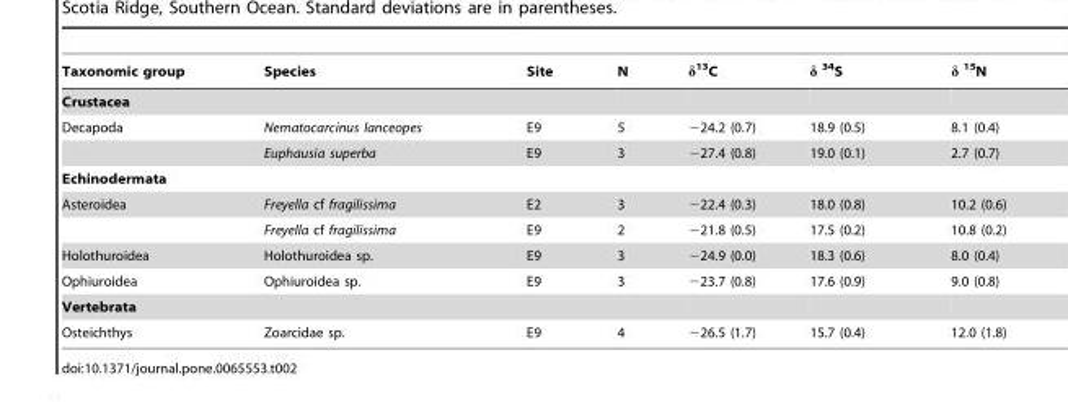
<table><thead><tr><td>Taxonomic group</td><td>Species</td><td>Site</td><td>N</td><td>δ<sup>13</sup>C</td><td>δ <sup>34</sup>S</td><td>δ <sup>15</sup>N</td></tr></thead><tbody><tr><td colspan="7">Crustacea</td></tr><tr><td rowspan="2">Decapoda</td><td>Nematocarcinus lanceopes</td><td>E9</td><td>5</td><td>−24.2 (0.7)</td><td>18.9 (0.5)</td><td>8.1 (0.4)</td></tr><tr><td>Euphausia superba</td><td>E9</td><td>3</td><td>−27.4 (0.8)</td><td>19.0 (0.1)</td><td>2.7 (0.7)</td></tr><tr><td colspan="7">Echinodermata</td></tr><tr><td rowspan="2">Asteroidea</td><td>Freyella cf fragilissima</td><td>E2</td><td>3</td><td>−22.4 (0.3)</td><td>18.0 (0.8)</td><td>10.2 (0.6)</td></tr><tr><td>Freyella cf fragilissima</td><td>E9</td><td>2</td><td>−21.8 (0.5)</td><td>17.5 (0.2)</td><td>10.8 (0.2)</td></tr><tr><td>Holothuroidea</td><td>Holothuroidea sp.</td><td>E9</td><td>3</td><td>−24.9 (0.0)</td><td>18.3 (0.6)</td><td>8.0 (0.4)</td></tr><tr><td>Ophiuroidea</td><td>Ophiuroidea sp.</td><td>E9</td><td>3</td><td>−23.7 (0.8)</td><td>17.6 (0.9)</td><td>9.0 (0.8)</td></tr><tr><td colspan="7">Vertebrata</td></tr><tr><td>Osteichthys</td><td>Zoarcidae sp.</td><td>E9</td><td>4</td><td>−26.5 (1.7)</td><td>15.7 (0.4)</td><td>12.0 (1.8)</td></tr></tbody></table>